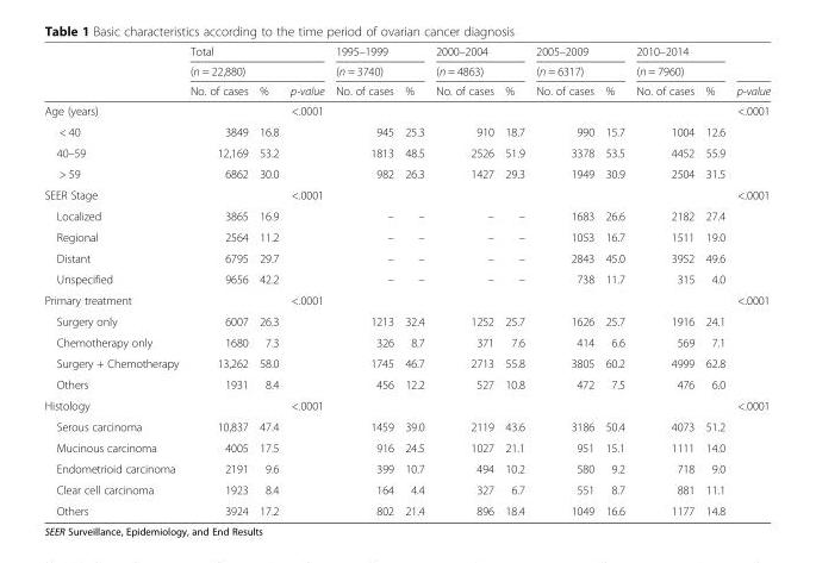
<table><thead><tr><td rowspan="3"></td><td rowspan="2" colspan="3">Total (n = 22,880)</td><td rowspan="2" colspan="2">1995–1999 (n = 3740)</td><td rowspan="2" colspan="2">2000–2004 (n = 4863)</td><td rowspan="2" colspan="2">2005–2009 (n = 6317)</td><td rowspan="2" colspan="2">2010–2014 (n = 7960)</td><td rowspan="3">p-value</td></tr><tr></tr><tr><td>No. of cases</td><td>%</td><td>p-value</td><td>No. of cases</td><td>%</td><td>No. of cases</td><td>%</td><td>No. of cases</td><td>%</td><td>No. of cases</td><td>%</td></tr></thead><tbody><tr><td>Age (years)</td><td></td><td></td><td>&lt;.0001</td><td></td><td></td><td></td><td></td><td></td><td></td><td></td><td></td><td>&lt;.0001</td></tr><tr><td>&lt; 40</td><td>3849</td><td>16.8</td><td></td><td>945</td><td>25.3</td><td>910</td><td>18.7</td><td>990</td><td>15.7</td><td>1004</td><td>12.6</td><td></td></tr><tr><td>40–59</td><td>12,169</td><td>53.2</td><td></td><td>1813</td><td>48.5</td><td>2526</td><td>51.9</td><td>3378</td><td>53.5</td><td>4452</td><td>55.9</td><td></td></tr><tr><td>&gt; 59</td><td>6862</td><td>30.0</td><td></td><td>982</td><td>26.3</td><td>1427</td><td>29.3</td><td>1949</td><td>30.9</td><td>2504</td><td>31.5</td><td></td></tr><tr><td>SEER Stage</td><td></td><td></td><td>&lt;.0001</td><td></td><td></td><td></td><td></td><td></td><td></td><td></td><td></td><td>&lt;.0001</td></tr><tr><td>Localized</td><td>3865</td><td>16.9</td><td></td><td>–</td><td>–</td><td>–</td><td>–</td><td>1683</td><td>26.6</td><td>2182</td><td>27.4</td><td></td></tr><tr><td>Regional</td><td>2564</td><td>11.2</td><td></td><td>–</td><td>–</td><td>–</td><td>–</td><td>1053</td><td>16.7</td><td>1511</td><td>19.0</td><td></td></tr><tr><td>Distant</td><td>6795</td><td>29.7</td><td></td><td>–</td><td>–</td><td>–</td><td>–</td><td>2843</td><td>45.0</td><td>3952</td><td>49.6</td><td></td></tr><tr><td>Unspecified</td><td>9656</td><td>42.2</td><td></td><td>–</td><td>–</td><td>–</td><td>–</td><td>738</td><td>11.7</td><td>315</td><td>4.0</td><td></td></tr><tr><td>Primary treatment</td><td></td><td></td><td>&lt;.0001</td><td></td><td></td><td></td><td></td><td></td><td></td><td></td><td></td><td>&lt;.0001</td></tr><tr><td>Surgery only</td><td>6007</td><td>26.3</td><td></td><td>1213</td><td>32.4</td><td>1252</td><td>25.7</td><td>1626</td><td>25.7</td><td>1916</td><td>24.1</td><td></td></tr><tr><td>Chemotherapy only</td><td>1680</td><td>7.3</td><td></td><td>326</td><td>8.7</td><td>371</td><td>7.6</td><td>414</td><td>6.6</td><td>569</td><td>7.1</td><td></td></tr><tr><td>Surgery + Chemotherapy</td><td>13,262</td><td>58.0</td><td></td><td>1745</td><td>46.7</td><td>2713</td><td>55.8</td><td>3805</td><td>60.2</td><td>4999</td><td>62.8</td><td></td></tr><tr><td>Others</td><td>1931</td><td>8.4</td><td></td><td>456</td><td>12.2</td><td>527</td><td>10.8</td><td>472</td><td>7.5</td><td>476</td><td>6.0</td><td></td></tr><tr><td>Histology</td><td></td><td></td><td>&lt;.0001</td><td></td><td></td><td></td><td></td><td></td><td></td><td></td><td></td><td>&lt;.0001</td></tr><tr><td>Serous carcinoma</td><td>10,837</td><td>47.4</td><td></td><td>1459</td><td>39.0</td><td>2119</td><td>43.6</td><td>3186</td><td>50.4</td><td>4073</td><td>51.2</td><td></td></tr><tr><td>Mucinous carcinoma</td><td>4005</td><td>17.5</td><td></td><td>916</td><td>24.5</td><td>1027</td><td>21.1</td><td>951</td><td>15.1</td><td>1111</td><td>14.0</td><td></td></tr><tr><td>Endometrioid carcinoma</td><td>2191</td><td>9.6</td><td></td><td>399</td><td>10.7</td><td>494</td><td>10.2</td><td>580</td><td>9.2</td><td>718</td><td>9.0</td><td></td></tr><tr><td>Clear cell carcinoma</td><td>1923</td><td>8.4</td><td></td><td>164</td><td>4.4</td><td>327</td><td>6.7</td><td>551</td><td>8.7</td><td>881</td><td>11.1</td><td></td></tr><tr><td>Others</td><td>3924</td><td>17.2</td><td></td><td>802</td><td>21.4</td><td>896</td><td>18.4</td><td>1049</td><td>16.6</td><td>1177</td><td>14.8</td><td></td></tr></tbody></table>